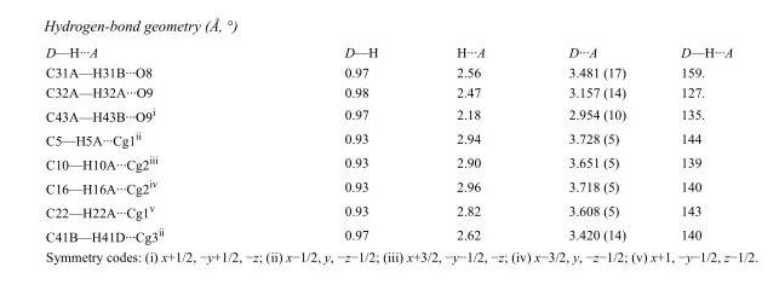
<table><tbody><tr><td>D—H···A</td><td>D—H</td><td>H···A</td><td>D···A</td><td>D—H···A</td></tr><tr><td>C31A—H31B···O8</td><td>0.97</td><td>2.56</td><td>3.481 (17)</td><td>159.</td></tr><tr><td>C32A—H32A···O9</td><td>0.98</td><td>2.47</td><td>3.157 (14)</td><td>127.</td></tr><tr><td>C43A—H43B···O9<sup>i</sup></td><td>0.97</td><td>2.18</td><td>2.954 (10)</td><td>135.</td></tr><tr><td>C5—H5A···Cg1<sup>ii</sup></td><td>0.93</td><td>2.94</td><td>3.728 (5)</td><td>144</td></tr><tr><td>C10—H10A···Cg2<sup>iii</sup></td><td>0.93</td><td>2.90</td><td>3.651 (5)</td><td>139</td></tr><tr><td>C16—H16A···Cg2<sup>iv</sup></td><td>0.93</td><td>2.96</td><td>3.718 (5)</td><td>140</td></tr><tr><td>C22—H22A···Cg1<sup>v</sup></td><td>0.93</td><td>2.82</td><td>3.608 (5)</td><td>143</td></tr><tr><td>C41B—H41D···Cg3<sup>ii</sup></td><td>0.97</td><td>2.62</td><td>3.420 (14)</td><td>140</td></tr></tbody></table>